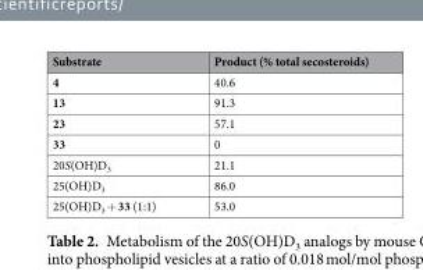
<table><thead><tr><td>Substrate</td><td>Product (% total secosteroids)</td></tr></thead><tbody><tr><td>4</td><td>40.6</td></tr><tr><td>13</td><td>91.3</td></tr><tr><td>23</td><td>57.1</td></tr><tr><td>33</td><td>0</td></tr><tr><td>20S(OH)D<sub>3</sub></td><td>21.1</td></tr><tr><td>25(OH)D<sub>3</sub></td><td>86.0</td></tr><tr><td>25(OH)D<sub>3</sub> + 33 (1:1)</td><td>53.0</td></tr></tbody></table>